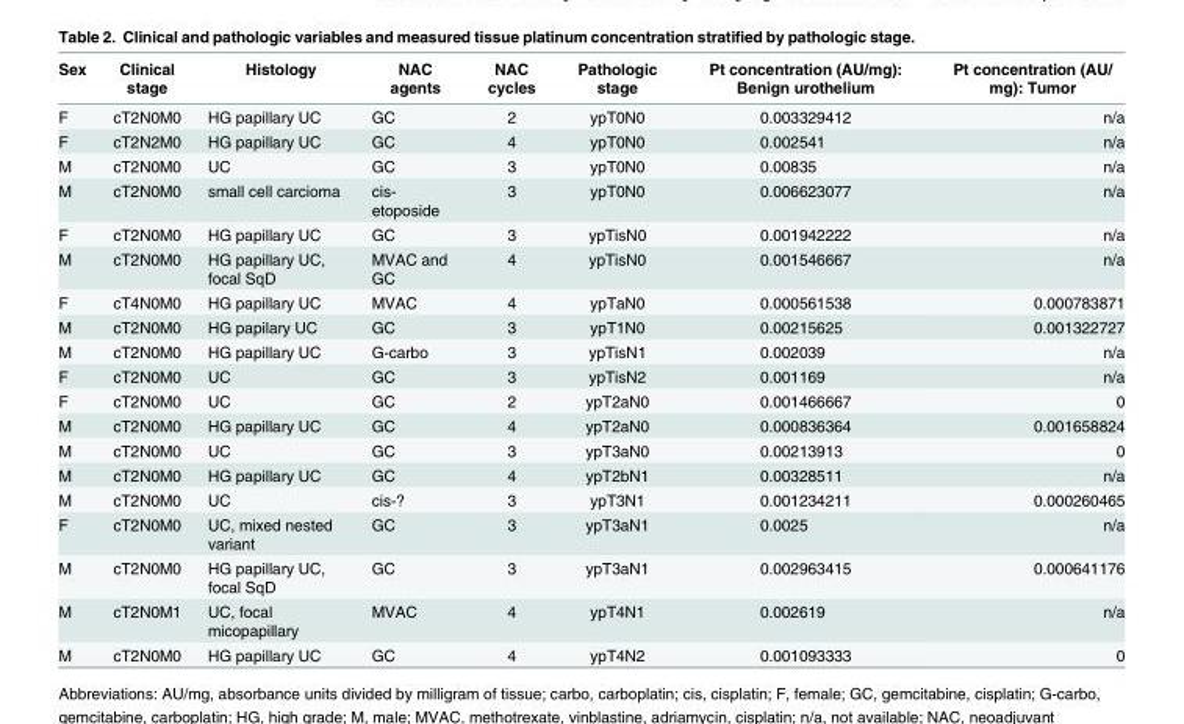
<table><thead><tr><td>Sex</td><td>Clinical stage</td><td>Histology</td><td>NAC agents</td><td>NAC cycles</td><td>Pathologic stage</td><td>Pt concentration (AU/mg): Benign urothelium</td><td>Pt concentration (AU/ mg): Tumor</td></tr></thead><tbody><tr><td>F</td><td>cT2N0M0</td><td>HG papillary UC</td><td>GC</td><td>2</td><td>ypT0N0</td><td>0.003329412</td><td>n/a</td></tr><tr><td>F</td><td>cT2N2M0</td><td>HG papillary UC</td><td>GC</td><td>4</td><td>ypT0N0</td><td>0.002541</td><td>n/a</td></tr><tr><td>M</td><td>cT2N0M0</td><td>UC</td><td>GC</td><td>3</td><td>ypT0N0</td><td>0.00835</td><td>n/a</td></tr><tr><td>M</td><td>cT2N0M0</td><td>small cell carcioma</td><td>cis- etoposide</td><td>3</td><td>ypT0N0</td><td>0.006623077</td><td>n/a</td></tr><tr><td>F</td><td>cT2N0M0</td><td>HG papillary UC</td><td>GC</td><td>3</td><td>ypTisN0</td><td>0.001942222</td><td>n/a</td></tr><tr><td>M</td><td>cT2N0M0</td><td>HG papillary UC, focal SqD</td><td>MVAC and GC</td><td>4</td><td>ypTisN0</td><td>0.001546667</td><td>n/a</td></tr><tr><td>F</td><td>cT4N0M0</td><td>HG papillary UC</td><td>MVAC</td><td>4</td><td>ypTaN0</td><td>0.000561538</td><td>0.000783871</td></tr><tr><td>M</td><td>cT2N0M0</td><td>HG papilary UC</td><td>GC</td><td>3</td><td>ypT1N0</td><td>0.00215625</td><td>0.001322727</td></tr><tr><td>M</td><td>cT2N0M0</td><td>HG papillary UC</td><td>G-carbo</td><td>3</td><td>ypTisN1</td><td>0.002039</td><td>n/a</td></tr><tr><td>F</td><td>cT2N0M0</td><td>UC</td><td>GC</td><td>3</td><td>ypTisN2</td><td>0.001169</td><td>n/a</td></tr><tr><td>F</td><td>cT2N0M0</td><td>UC</td><td>GC</td><td>2</td><td>ypT2aN0</td><td>0.001466667</td><td>0</td></tr><tr><td>M</td><td>cT2N0M0</td><td>HG papillary UC</td><td>GC</td><td>4</td><td>ypT2aN0</td><td>0.000836364</td><td>0.001658824</td></tr><tr><td>M</td><td>cT2N0M0</td><td>UC</td><td>GC</td><td>3</td><td>ypT3aN0</td><td>0.00213913</td><td>0</td></tr><tr><td>M</td><td>cT2N0M0</td><td>HG papillary UC</td><td>GC</td><td>4</td><td>ypT2bN1</td><td>0.00328511</td><td>n/a</td></tr><tr><td>M</td><td>cT2N0M0</td><td>UC</td><td>cis-?</td><td>3</td><td>ypT3N1</td><td>0.001234211</td><td>0.000260465</td></tr><tr><td>F</td><td>cT2N0M0</td><td>UC, mixed nested variant</td><td>GC</td><td>3</td><td>ypT3aN1</td><td>0.0025</td><td>n/a</td></tr><tr><td>M</td><td>cT2N0M0</td><td>HG papillary UC, focal SqD</td><td>GC</td><td>3</td><td>ypT3aN1</td><td>0.002963415</td><td>0.000641176</td></tr><tr><td>M</td><td>cT2N0M1</td><td>UC, focal micopapillary</td><td>MVAC</td><td>4</td><td>ypT4N1</td><td>0.002619</td><td>n/a</td></tr><tr><td>M</td><td>cT2N0M0</td><td>HG papillary UC</td><td>GC</td><td>4</td><td>ypT4N2</td><td>0.001093333</td><td>0</td></tr></tbody></table>